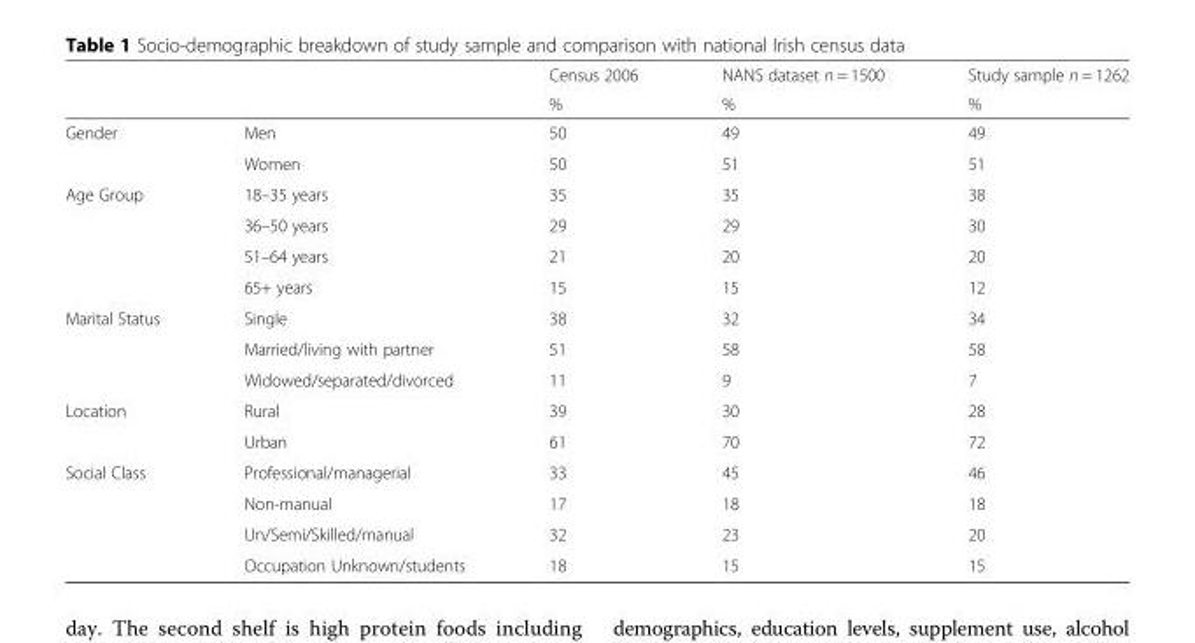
<table><thead><tr><td rowspan="2"></td><td rowspan="2"></td><td rowspan="2">Census 2006 %</td><td rowspan="2">NANS dataset n = 1500 %</td><td rowspan="2">Study sample n = 1262 %</td></tr><tr></tr></thead><tbody><tr><td rowspan="2">Gender</td><td>Men</td><td>50</td><td>49</td><td>49</td></tr><tr><td>Women</td><td>50</td><td>51</td><td>51</td></tr><tr><td rowspan="4">Age Group</td><td>18–35 years</td><td>35</td><td>35</td><td>38</td></tr><tr><td>36–50 years</td><td>29</td><td>29</td><td>30</td></tr><tr><td>51–64 years</td><td>21</td><td>20</td><td>20</td></tr><tr><td>65+ years</td><td>15</td><td>15</td><td>12</td></tr><tr><td rowspan="3">Marital Status</td><td>Single</td><td>38</td><td>32</td><td>34</td></tr><tr><td>Married/living with partner</td><td>51</td><td>58</td><td>58</td></tr><tr><td>Widowed/separated/divorced</td><td>11</td><td>9</td><td>7</td></tr><tr><td rowspan="2">Location</td><td>Rural</td><td>39</td><td>30</td><td>28</td></tr><tr><td>Urban</td><td>61</td><td>70</td><td>72</td></tr><tr><td rowspan="4">Social Class</td><td>Professional/managerial</td><td>33</td><td>45</td><td>46</td></tr><tr><td>Non-manual</td><td>17</td><td>18</td><td>18</td></tr><tr><td>Un/Semi/Skilled/manual</td><td>32</td><td>23</td><td>20</td></tr><tr><td>Occupation Unknown/students</td><td>18</td><td>15</td><td>15</td></tr></tbody></table>